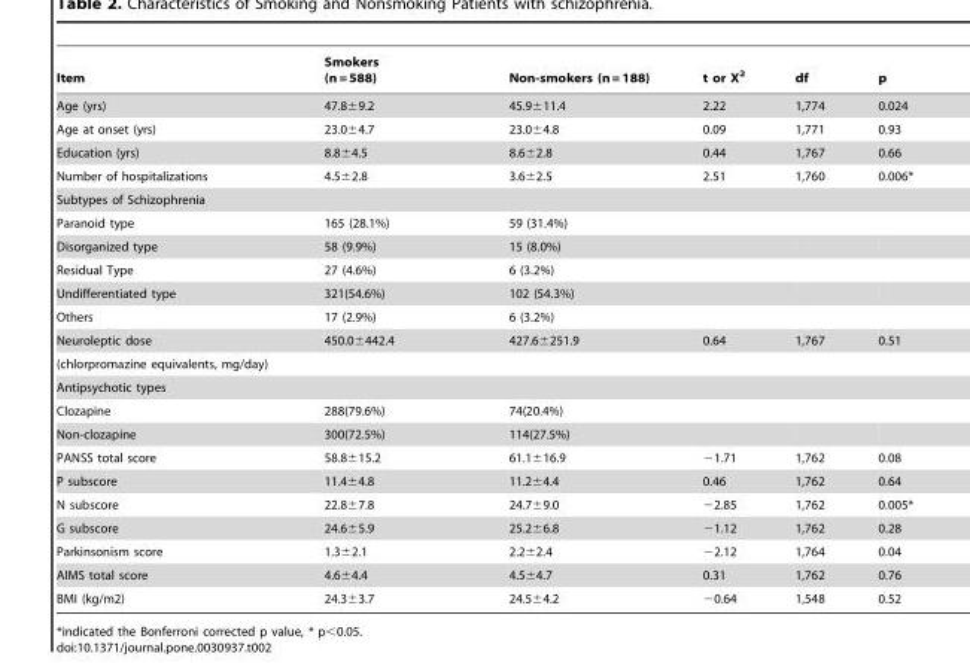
<table><thead><tr><td>Item</td><td>Smokers (n = 588)</td><td>Non-smokers (n = 188)</td><td>t or X<sup>2</sup></td><td>df</td><td>p</td></tr></thead><tbody><tr><td>Age (yrs)</td><td>47.8±9.2</td><td>45.9±11.4</td><td>2.22</td><td>1,774</td><td>0.024</td></tr><tr><td>Age at onset (yrs)</td><td>23.0±4.7</td><td>23.0±4.8</td><td>0.09</td><td>1,771</td><td>0.93</td></tr><tr><td>Education (yrs)</td><td>8.8±4.5</td><td>8.6±2.8</td><td>0.44</td><td>1,767</td><td>0.66</td></tr><tr><td>Number of hospitalizations</td><td>4.5±2.8</td><td>3.6±2.5</td><td>2.51</td><td>1,760</td><td>0.006*</td></tr><tr><td colspan="6">Subtypes of Schizophrenia</td></tr><tr><td>Paranoid type</td><td>165 (28.1%)</td><td>59 (31.4%)</td><td></td><td></td><td></td></tr><tr><td>Disorganized type</td><td>58 (9.9%)</td><td>15 (8.0%)</td><td></td><td></td><td></td></tr><tr><td>Residual Type</td><td>27 (4.6%)</td><td>6 (3.2%)</td><td></td><td></td><td></td></tr><tr><td>Undifferentiated type</td><td>321(54.6%)</td><td>102 (54.3%)</td><td></td><td></td><td></td></tr><tr><td>Others</td><td>17 (2.9%)</td><td>6 (3.2%)</td><td></td><td></td><td></td></tr><tr><td>Neuroleptic dose</td><td>450.0±442.4</td><td>427.6±251.9</td><td>0.64</td><td>1,767</td><td>0.51</td></tr><tr><td colspan="6">(chlorpromazine equivalents, mg/day)</td></tr><tr><td colspan="6">Antipsychotic types</td></tr><tr><td>Clozapine</td><td>288(79.6%)</td><td>74(20.4%)</td><td></td><td></td><td></td></tr><tr><td>Non-clozapine</td><td>300(72.5%)</td><td>114(27.5%)</td><td></td><td></td><td></td></tr><tr><td>PANSS total score</td><td>58.8±15.2</td><td>61.1±16.9</td><td>−1.71</td><td>1,762</td><td>0.08</td></tr><tr><td>P subscore</td><td>11.4±4.8</td><td>11.2±4.4</td><td>0.46</td><td>1,762</td><td>0.64</td></tr><tr><td>N subscore</td><td>22.8±7.8</td><td>24.7±9.0</td><td>−2.85</td><td>1,762</td><td>0.005*</td></tr><tr><td>G subscore</td><td>24.6±5.9</td><td>25.2±6.8</td><td>−1.12</td><td>1,762</td><td>0.28</td></tr><tr><td>Parkinsonism score</td><td>1.3±2.1</td><td>2.2±2.4</td><td>−2.12</td><td>1,764</td><td>0.04</td></tr><tr><td>AIMS total score</td><td>4.6±4.4</td><td>4.5±4.7</td><td>0.31</td><td>1,762</td><td>0.76</td></tr><tr><td>BMI (kg/m2)</td><td>24.3±3.7</td><td>24.5±4.2</td><td>−0.64</td><td>1,548</td><td>0.52</td></tr></tbody></table>